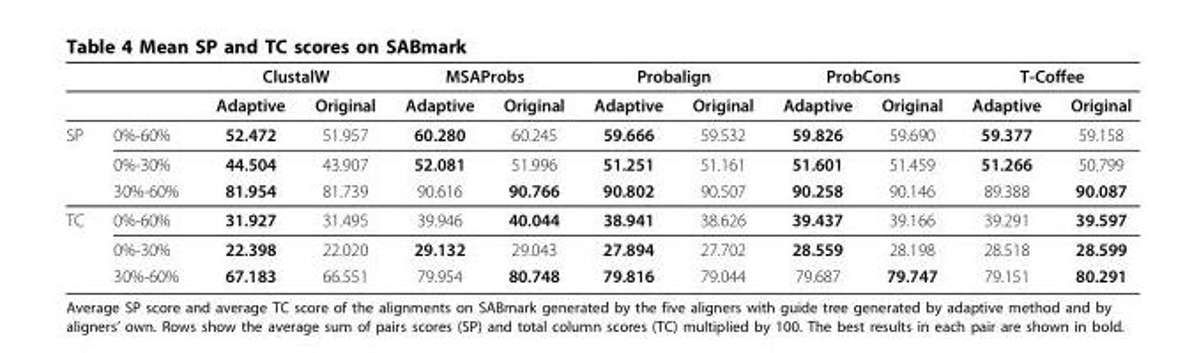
<table><thead><tr><td rowspan="2"></td><td rowspan="2"></td><td colspan="2">ClustalW</td><td colspan="2">MSAProbs</td><td colspan="2">Probalign</td><td colspan="2">ProbCons</td><td colspan="2">T-Coffee</td></tr><tr><td>Adaptive</td><td>Original</td><td>Adaptive</td><td>Original</td><td>Adaptive</td><td>Original</td><td>Adaptive</td><td>Original</td><td>Adaptive</td><td>Original</td></tr></thead><tbody><tr><td rowspan="3">SP</td><td>0%-60%</td><td>52.472</td><td>51.957</td><td>60.280</td><td>60.245</td><td>59.666</td><td>59.532</td><td>59.826</td><td>59.690</td><td>59.377</td><td>59.158</td></tr><tr><td>0%-30%</td><td>44.504</td><td>43.907</td><td>52.081</td><td>51.996</td><td>51.251</td><td>51.161</td><td>51.601</td><td>51.459</td><td>51.266</td><td>50.799</td></tr><tr><td>30%-60%</td><td>81.954</td><td>81.739</td><td>90.616</td><td>90.766</td><td>90.802</td><td>90.507</td><td>90.258</td><td>90.146</td><td>89.388</td><td>90.087</td></tr><tr><td rowspan="3">TC</td><td>0%-60%</td><td>31.927</td><td>31.495</td><td>39.946</td><td>40.044</td><td>38.941</td><td>38.626</td><td>39.437</td><td>39.166</td><td>39.291</td><td>39.597</td></tr><tr><td>0%-30%</td><td>22.398</td><td>22.020</td><td>29.132</td><td>29.043</td><td>27.894</td><td>27.702</td><td>28.559</td><td>28.198</td><td>28.518</td><td>28.599</td></tr><tr><td>30%-60%</td><td>67.183</td><td>66.551</td><td>79.954</td><td>80.748</td><td>79.816</td><td>79.044</td><td>79.687</td><td>79.747</td><td>79.151</td><td>80.291</td></tr></tbody></table>